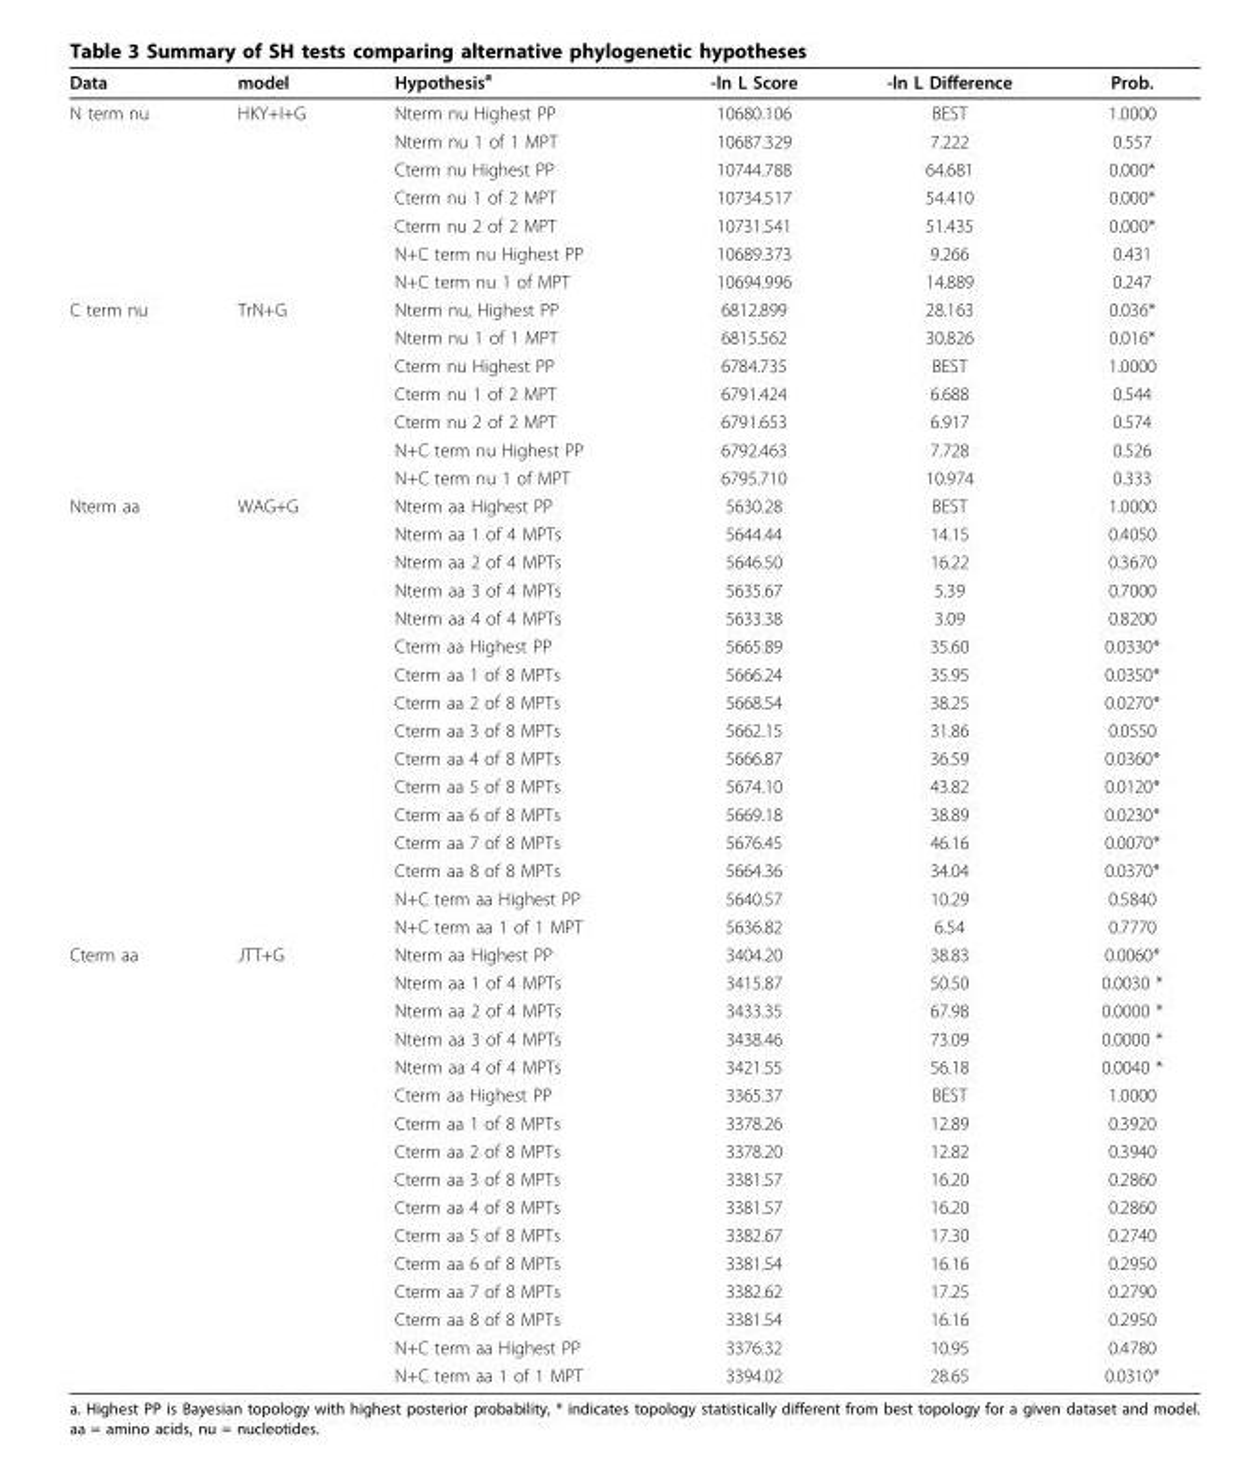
<table><thead><tr><td>Data</td><td>model</td><td>Hypothesis<sup>a</sup></td><td>-ln L Score</td><td>-ln L Difference</td><td>Prob.</td></tr></thead><tbody><tr><td rowspan="7">N term nu</td><td>HKY+I+G</td><td>Nterm nu Highest PP</td><td>10680.106</td><td>BEST</td><td>1.0000</td></tr><tr><td></td><td>Nterm nu 1 of 1 MPT</td><td>10687.329</td><td>7.222</td><td>0.557</td></tr><tr><td></td><td>Cterm nu Highest PP</td><td>10744.788</td><td>64.681</td><td>0.000*</td></tr><tr><td></td><td>Cterm nu 1 of 2 MPT</td><td>10734.517</td><td>54.410</td><td>0.000*</td></tr><tr><td></td><td>Cterm nu 2 of 2 MPT</td><td>10731.541</td><td>51.435</td><td>0.000*</td></tr><tr><td></td><td>N+C term nu Highest PP</td><td>10689.373</td><td>9.266</td><td>0.431</td></tr><tr><td></td><td>N+C term nu 1 of MPT</td><td>10694.996</td><td>14.889</td><td>0.247</td></tr><tr><td rowspan="7">C term nu</td><td>TrN+G</td><td>Nterm nu, Highest PP</td><td>6812.899</td><td>28.163</td><td>0.036*</td></tr><tr><td></td><td>Nterm nu 1 of 1 MPT</td><td>6815.562</td><td>30.826</td><td>0.016*</td></tr><tr><td></td><td>Cterm nu Highest PP</td><td>6784.735</td><td>BEST</td><td>1.0000</td></tr><tr><td></td><td>Cterm nu 1 of 2 MPT</td><td>6791.424</td><td>6.688</td><td>0.544</td></tr><tr><td></td><td>Cterm nu 2 of 2 MPT</td><td>6791.653</td><td>6.917</td><td>0.574</td></tr><tr><td></td><td>N+C term nu Highest PP</td><td>6792.463</td><td>7.728</td><td>0.526</td></tr><tr><td></td><td>N+C term nu 1 of MPT</td><td>6795.710</td><td>10.974</td><td>0.333</td></tr><tr><td rowspan="16">Nterm aa</td><td>WAG+G</td><td>Nterm aa Highest PP</td><td>5630.28</td><td>BEST</td><td>1.0000</td></tr><tr><td></td><td>Nterm aa 1 of 4 MPTs</td><td>5644.44</td><td>14.15</td><td>0.4050</td></tr><tr><td></td><td>Nterm aa 2 of 4 MPTs</td><td>5646.50</td><td>16.22</td><td>0.3670</td></tr><tr><td></td><td>Nterm aa 3 of 4 MPTs</td><td>5635.67</td><td>5.39</td><td>0.7000</td></tr><tr><td></td><td>Nterm aa 4 of 4 MPTs</td><td>5633.38</td><td>3.09</td><td>0.8200</td></tr><tr><td></td><td>Cterm aa Highest PP</td><td>5665.89</td><td>35.60</td><td>0.0330*</td></tr><tr><td></td><td>Cterm aa 1 of 8 MPTs</td><td>5666.24</td><td>35.95</td><td>0.0350*</td></tr><tr><td></td><td>Cterm aa 2 of 8 MPTs</td><td>5668.54</td><td>38.25</td><td>0.0270*</td></tr><tr><td></td><td>Cterm aa 3 of 8 MPTs</td><td>5662.15</td><td>31.86</td><td>0.0550</td></tr><tr><td></td><td>Cterm aa 4 of 8 MPTs</td><td>5666.87</td><td>36.59</td><td>0.0360*</td></tr><tr><td></td><td>Cterm aa 5 of 8 MPTs</td><td>5674.10</td><td>43.82</td><td>0.0120*</td></tr><tr><td></td><td>Cterm aa 6 of 8 MPTs</td><td>5669.18</td><td>38.89</td><td>0.0230*</td></tr><tr><td></td><td>Cterm aa 7 of 8 MPTs</td><td>5676.45</td><td>46.16</td><td>0.0070*</td></tr><tr><td></td><td>Cterm aa 8 of 8 MPTs</td><td>5664.36</td><td>34.04</td><td>0.0370*</td></tr><tr><td></td><td>N+C term aa Highest PP</td><td>5640.57</td><td>10.29</td><td>0.5840</td></tr><tr><td></td><td>N+C term aa 1 of 1 MPT</td><td>5636.82</td><td>6.54</td><td>0.7770</td></tr><tr><td rowspan="16">Cterm aa</td><td>JTT+G</td><td>Nterm aa Highest PP</td><td>3404.20</td><td>38.83</td><td>0.0060*</td></tr><tr><td></td><td>Nterm aa 1 of 4 MPTs</td><td>3415.87</td><td>50.50</td><td>0.0030 *</td></tr><tr><td></td><td>Nterm aa 2 of 4 MPTs</td><td>3433.35</td><td>67.98</td><td>0.0000 *</td></tr><tr><td></td><td>Nterm aa 3 of 4 MPTs</td><td>3438.46</td><td>73.09</td><td>0.0000 *</td></tr><tr><td></td><td>Nterm aa 4 of 4 MPTs</td><td>3421.55</td><td>56.18</td><td>0.0040 *</td></tr><tr><td></td><td>Cterm aa Highest PP</td><td>3365.37</td><td>BEST</td><td>1.0000</td></tr><tr><td></td><td>Cterm aa 1 of 8 MPTs</td><td>3378.26</td><td>12.89</td><td>0.3920</td></tr><tr><td></td><td>Cterm aa 2 of 8 MPTs</td><td>3378.20</td><td>12.82</td><td>0.3940</td></tr><tr><td></td><td>Cterm aa 3 of 8 MPTs</td><td>3381.57</td><td>16.20</td><td>0.2860</td></tr><tr><td></td><td>Cterm aa 4 of 8 MPTs</td><td>3381.57</td><td>16.20</td><td>0.2860</td></tr><tr><td></td><td>Cterm aa 5 of 8 MPTs</td><td>3382.67</td><td>17.30</td><td>0.2740</td></tr><tr><td></td><td>Cterm aa 6 of 8 MPTs</td><td>3381.54</td><td>16.16</td><td>0.2950</td></tr><tr><td></td><td>Cterm aa 7 of 8 MPTs</td><td>3382.62</td><td>17.25</td><td>0.2790</td></tr><tr><td></td><td>Cterm aa 8 of 8 MPTs</td><td>3381.54</td><td>16.16</td><td>0.2950</td></tr><tr><td></td><td>N+C term aa Highest PP</td><td>3376.32</td><td>10.95</td><td>0.4780</td></tr><tr><td></td><td>N+C term aa 1 of 1 MPT</td><td>3394.02</td><td>28.65</td><td>0.0310*</td></tr></tbody></table>